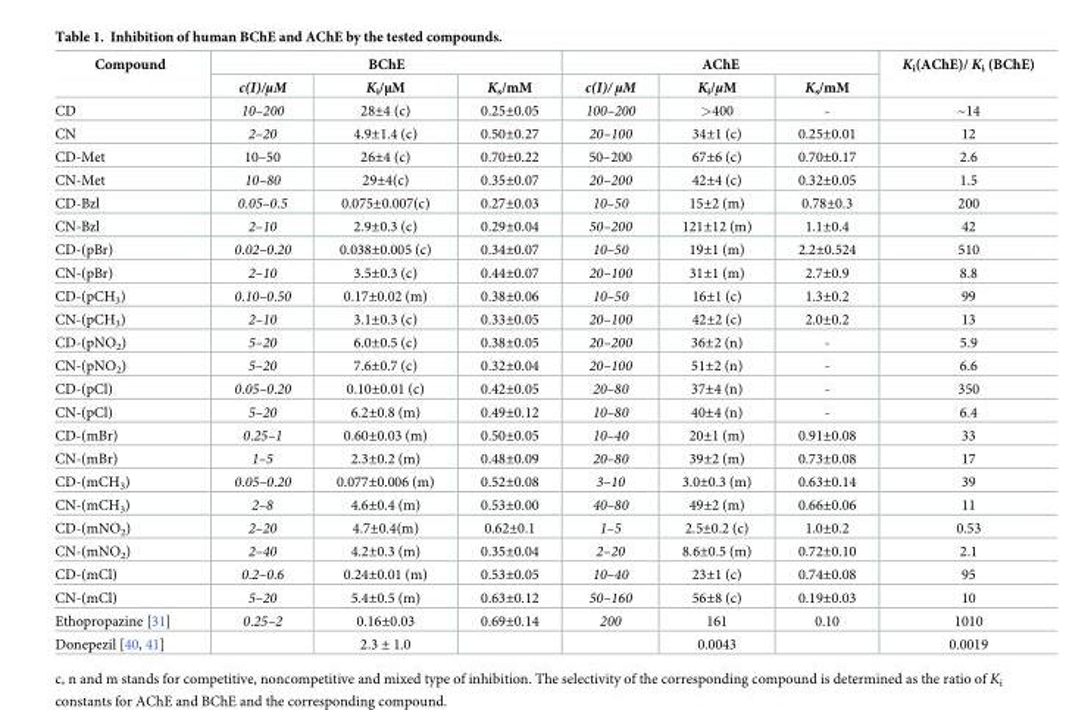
<table><thead><tr><td rowspan="2">Compound</td><td colspan="3">BChE</td><td colspan="3">AChE</td><td rowspan="2">K<sub>i</sub>(AChE)/ K<sub>i</sub> (BChE)</td></tr><tr><td>c(I)/μM</td><td>K<sub>i</sub>/μM</td><td>K<sub>s</sub>/mM</td><td>c(I)/ μM</td><td>K<sub>i</sub>/μM</td><td>K<sub>s</sub>/mM</td></tr></thead><tbody><tr><td>CD</td><td>10–200</td><td>28±4 (c)</td><td>0.25±0.05</td><td>100–200</td><td>&gt;400</td><td>-</td><td>~14</td></tr><tr><td>CN</td><td>2–20</td><td>4.9±1.4 (c)</td><td>0.50±0.27</td><td>20–100</td><td>34±1 (c)</td><td>0.25±0.01</td><td>12</td></tr><tr><td>CD-Met</td><td>10–50</td><td>26±4 (c)</td><td>0.70±0.22</td><td>50–200</td><td>67±6 (c)</td><td>0.70±0.17</td><td>2.6</td></tr><tr><td>CN-Met</td><td>10–80</td><td>29±4(c)</td><td>0.35±0.07</td><td>20–200</td><td>42±4 (c)</td><td>0.32±0.05</td><td>1.5</td></tr><tr><td>CD-Bzl</td><td>0.05–0.5</td><td>0.075±0.007(c)</td><td>0.27±0.03</td><td>10–50</td><td>15±2 (m)</td><td>0.78±0.3</td><td>200</td></tr><tr><td>CN-Bzl</td><td>2–10</td><td>2.9±0.3 (c)</td><td>0.29±0.04</td><td>50–200</td><td>121±12 (m)</td><td>1.1±0.4</td><td>42</td></tr><tr><td>CD-(pBr)</td><td>0.02–0.20</td><td>0.038±0.005 (c)</td><td>0.34±0.07</td><td>10–50</td><td>19±1 (m)</td><td>2.2±0.524</td><td>510</td></tr><tr><td>CN-(pBr)</td><td>2–10</td><td>3.5±0.3 (c)</td><td>0.44±0.07</td><td>20–100</td><td>31±1 (m)</td><td>2.7±0.9</td><td>8.8</td></tr><tr><td>CD-(pCH<sub>3</sub>)</td><td>0.10–0.50</td><td>0.17±0.02 (m)</td><td>0.38±0.06</td><td>10–50</td><td>16±1 (c)</td><td>1.3±0.2</td><td>99</td></tr><tr><td>CN-(pCH<sub>3</sub>)</td><td>2–10</td><td>3.1±0.3 (c)</td><td>0.33±0.05</td><td>20–100</td><td>42±2 (c)</td><td>2.0±0.2</td><td>13</td></tr><tr><td>CD-(pNO<sub>2</sub>)</td><td>5–20</td><td>6.0±0.5 (c)</td><td>0.38±0.05</td><td>20–200</td><td>36±2 (n)</td><td>-</td><td>5.9</td></tr><tr><td>CN-(pNO<sub>2</sub>)</td><td>5–20</td><td>7.6±0.7 (c)</td><td>0.32±0.04</td><td>20–100</td><td>51±2 (n)</td><td>-</td><td>6.6</td></tr><tr><td>CD-(pCl)</td><td>0.05–0.20</td><td>0.10±0.01 (c)</td><td>0.42±0.05</td><td>20–80</td><td>37±4 (n)</td><td>-</td><td>350</td></tr><tr><td>CN-(pCl)</td><td>5–20</td><td>6.2±0.8 (m)</td><td>0.49±0.12</td><td>10–80</td><td>40±4 (n)</td><td>-</td><td>6.4</td></tr><tr><td>CD-(mBr)</td><td>0.25–1</td><td>0.60±0.03 (m)</td><td>0.50±0.05</td><td>10–40</td><td>20±1 (m)</td><td>0.91±0.08</td><td>33</td></tr><tr><td>CN-(mBr)</td><td>1–5</td><td>2.3±0.2 (m)</td><td>0.48±0.09</td><td>20–80</td><td>39±2 (m)</td><td>0.73±0.08</td><td>17</td></tr><tr><td>CD-(mCH<sub>3</sub>)</td><td>0.05–0.20</td><td>0.077±0.006 (m)</td><td>0.52±0.08</td><td>3–10</td><td>3.0±0.3 (m)</td><td>0.63±0.14</td><td>39</td></tr><tr><td>CN-(mCH<sub>3</sub>)</td><td>2–8</td><td>4.6±0.4 (m)</td><td>0.53±0.00</td><td>40–80</td><td>49±2 (m)</td><td>0.66±0.06</td><td>11</td></tr><tr><td>CD-(mNO<sub>2</sub>)</td><td>2–20</td><td>4.7±0.4(m)</td><td>0.62±0.1</td><td>1–5</td><td>2.5±0.2 (c)</td><td>1.0±0.2</td><td>0.53</td></tr><tr><td>CN-(mNO<sub>2</sub>)</td><td>2–40</td><td>4.2±0.3 (m)</td><td>0.35±0.04</td><td>2–20</td><td>8.6±0.5 (m)</td><td>0.72±0.10</td><td>2.1</td></tr><tr><td>CD-(mCl)</td><td>0.2–0.6</td><td>0.24±0.01 (m)</td><td>0.53±0.05</td><td>10–40</td><td>23±1 (c)</td><td>0.74±0.08</td><td>95</td></tr><tr><td>CN-(mCl)</td><td>5–20</td><td>5.4±0.5 (m)</td><td>0.63±0.12</td><td>50–160</td><td>56±8 (c)</td><td>0.19±0.03</td><td>10</td></tr><tr><td>Ethopropazine [31]</td><td>0.25–2</td><td>0.16±0.03</td><td>0.69±0.14</td><td>200</td><td>161</td><td>0.10</td><td>1010</td></tr><tr><td>Donepezil [40, 41]</td><td></td><td>2.3 ± 1.0</td><td></td><td></td><td>0.0043</td><td></td><td>0.0019</td></tr></tbody></table>